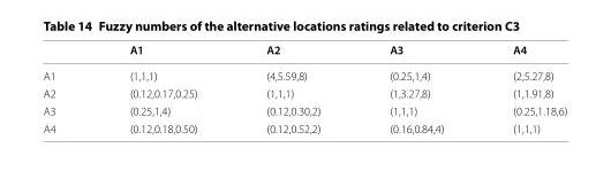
<table><thead><tr><td></td><td>A1</td><td>A2</td><td>A3</td><td>A4</td></tr></thead><tbody><tr><td>A1</td><td>(1,1,1)</td><td>(4,5.59,8)</td><td>(0.25,1,4)</td><td>(2,5.27,8)</td></tr><tr><td>A2</td><td>(0.12,0.17,0.25)</td><td>(1,1,1)</td><td>(1,3.27,8)</td><td>(1,1.91,8)</td></tr><tr><td>A3</td><td>(0.25,1,4)</td><td>(0.12,0.30,2)</td><td>(1,1,1)</td><td>(0.25,1.18,6)</td></tr><tr><td>A4</td><td>(0.12,0.18,0.50)</td><td>(0.12,0.52,2)</td><td>(0.16,0.84,4)</td><td>(1,1,1)</td></tr></tbody></table>